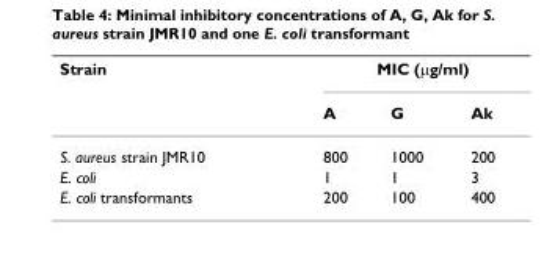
<table><thead><tr><td rowspan="2">Strain</td><td colspan="3">MIC (µg/ml)</td></tr><tr><td>A</td><td>G</td><td>Ak</td></tr></thead><tbody><tr><td>S. aureus strain JMR10</td><td>800</td><td>1000</td><td>200</td></tr><tr><td>E. coli</td><td>1</td><td>1</td><td>3</td></tr><tr><td>E. coli transformants</td><td>200</td><td>100</td><td>400</td></tr></tbody></table>